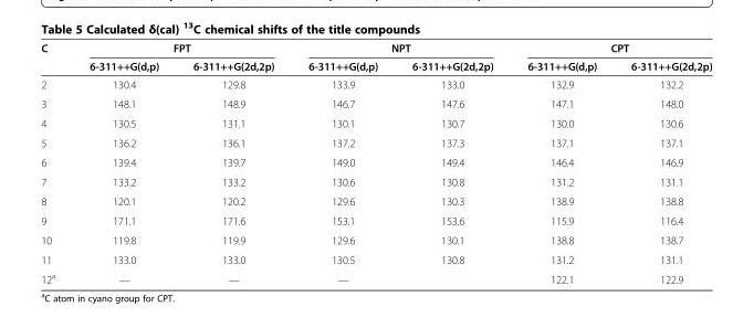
<table><thead><tr><td rowspan="2">C</td><td colspan="2">FPT</td><td colspan="2">NPT</td><td colspan="2">CPT</td></tr><tr><td>6-311++G(d,p)</td><td>6-311++G(2d,2p)</td><td>6-311++G(d,p)</td><td>6-311++G(2d,2p)</td><td>6-311++G(d,p)</td><td>6-311++G(2d,2p)</td></tr></thead><tbody><tr><td>2</td><td>130.4</td><td>129.8</td><td>133.9</td><td>133.0</td><td>132.9</td><td>132.2</td></tr><tr><td>3</td><td>148.1</td><td>148.9</td><td>146.7</td><td>147.6</td><td>147.1</td><td>148.0</td></tr><tr><td>4</td><td>130.5</td><td>131.1</td><td>130.1</td><td>130.7</td><td>130.0</td><td>130.6</td></tr><tr><td>5</td><td>136.2</td><td>136.1</td><td>137.2</td><td>137.3</td><td>137.1</td><td>137.1</td></tr><tr><td>6</td><td>139.4</td><td>139.7</td><td>149.0</td><td>149.4</td><td>146.4</td><td>146.9</td></tr><tr><td>7</td><td>133.2</td><td>133.2</td><td>130.6</td><td>130.8</td><td>131.2</td><td>131.1</td></tr><tr><td>8</td><td>120.1</td><td>120.2</td><td>129.6</td><td>130.3</td><td>138.9</td><td>138.8</td></tr><tr><td>9</td><td>171.1</td><td>171.6</td><td>153.1</td><td>153.6</td><td>115.9</td><td>116.4</td></tr><tr><td>10</td><td>119.8</td><td>119.9</td><td>129.6</td><td>130.1</td><td>138.8</td><td>138.7</td></tr><tr><td>11</td><td>133.0</td><td>133.0</td><td>130.5</td><td>130.8</td><td>131.2</td><td>131.1</td></tr><tr><td>12<sup>a</sup></td><td>—</td><td>—</td><td>—</td><td></td><td>122.1</td><td>122.9</td></tr></tbody></table>